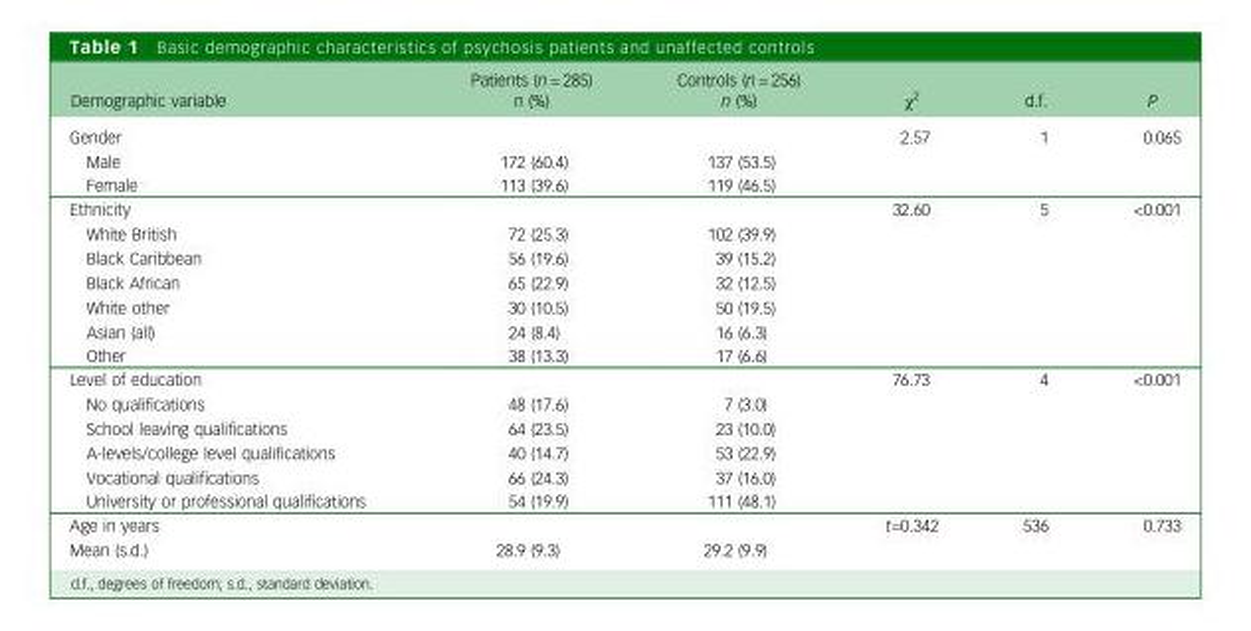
<table><thead><tr><td>Demographic variable</td><td>Patients (n = 285) n (%)</td><td>Controls (n = 256) n (%)</td><td>χ<sup>2</sup></td><td>d.f.</td><td>P</td></tr></thead><tbody><tr><td>Gender</td><td></td><td></td><td>2.57</td><td>1</td><td>0.065</td></tr><tr><td>Male</td><td>172 (60.4)</td><td>137 (53.5)</td><td></td><td></td><td></td></tr><tr><td>Female</td><td>113 (39.6)</td><td>119 (46.5)</td><td></td><td></td><td></td></tr><tr><td>Ethnicity</td><td></td><td></td><td>32.60</td><td>5</td><td>&lt;0.001</td></tr><tr><td>White British</td><td>72 (25.3)</td><td>102 (39.9)</td><td></td><td></td><td></td></tr><tr><td>Black Caribbean</td><td>56 (19.6)</td><td>39 (15.2)</td><td></td><td></td><td></td></tr><tr><td>Black African</td><td>65 (22.9)</td><td>32 (12.5)</td><td></td><td></td><td></td></tr><tr><td>White other</td><td>30 (10.5)</td><td>50 (19.5)</td><td></td><td></td><td></td></tr><tr><td>Asian (all)</td><td>24 (8.4)</td><td>16 (6.3)</td><td></td><td></td><td></td></tr><tr><td>Other</td><td>38 (13.3)</td><td>17 (6.6)</td><td></td><td></td><td></td></tr><tr><td>Level of education</td><td></td><td></td><td>76.73</td><td>4</td><td>&lt;0.001</td></tr><tr><td>No qualifications</td><td>48 (17.6)</td><td>7 (3.0)</td><td></td><td></td><td></td></tr><tr><td>School leaving qualifications</td><td>64 (23.5)</td><td>23 (10.0)</td><td></td><td></td><td></td></tr><tr><td>A-levels/college level qualifications</td><td>40 (14.7)</td><td>53 (22.9)</td><td></td><td></td><td></td></tr><tr><td>Vocational qualifications</td><td>66 (24.3)</td><td>37 (16.0)</td><td></td><td></td><td></td></tr><tr><td>University or professional qualifications</td><td>54 (19.9)</td><td>111 (48.1)</td><td></td><td></td><td></td></tr><tr><td>Age in years</td><td></td><td></td><td>t=0.342</td><td>536</td><td>0.733</td></tr><tr><td>Mean (s.d.)</td><td>28.9 (9.3)</td><td>29.2 (9.9)</td><td></td><td></td><td></td></tr></tbody></table>